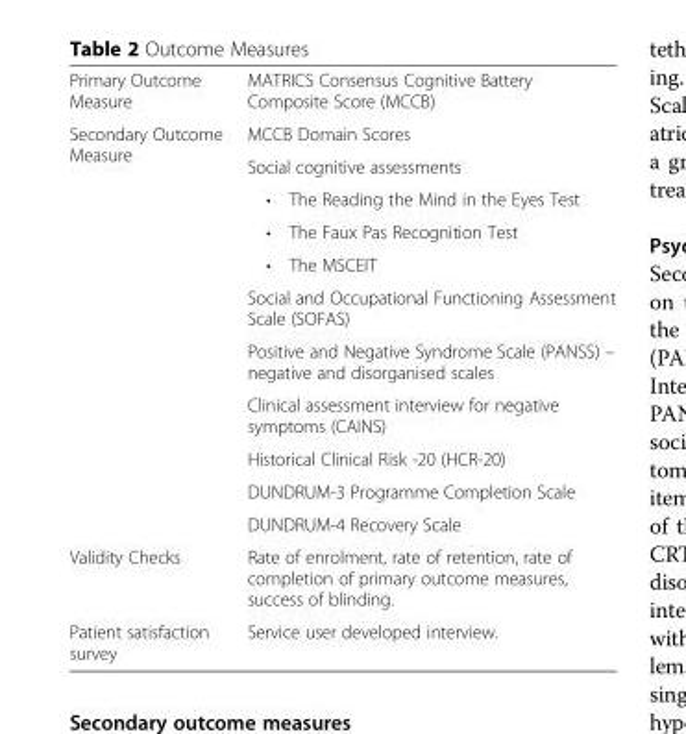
<table><tbody><tr><td>Primary Outcome Measure</td><td>MATRICS Consensus Cognitive Battery Composite Score (MCCB)</td></tr><tr><td rowspan="11">Secondary Outcome Measure</td><td>MCCB Domain Scores</td></tr><tr><td>Social cognitive assessments</td></tr><tr><td>• The Reading the Mind in the Eyes Test</td></tr><tr><td>• The Faux Pas Recognition Test</td></tr><tr><td>• The MSCEIT</td></tr><tr><td>Social and Occupational Functioning Assessment Scale (SOFAS)</td></tr><tr><td>Positive and Negative Syndrome Scale (PANSS) – negative and disorganised scales</td></tr><tr><td>Clinical assessment interview for negative symptoms (CAINS)</td></tr><tr><td>Historical Clinical Risk -20 (HCR-20)</td></tr><tr><td>DUNDRUM-3 Programme Completion Scale</td></tr><tr><td>DUNDRUM-4 Recovery Scale</td></tr><tr><td>Validity Checks</td><td>Rate of enrolment, rate of retention, rate of completion of primary outcome measures, success of blinding.</td></tr><tr><td>Patient satisfaction survey</td><td>Service user developed interview.</td></tr></tbody></table>